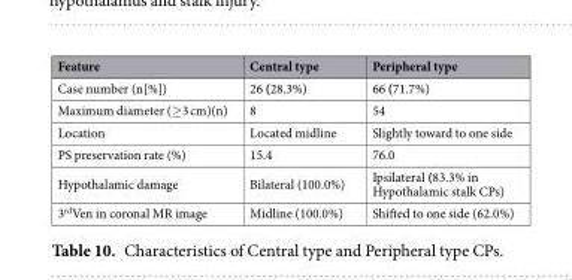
<table><thead><tr><td>Feature</td><td>Central type</td><td>Peripheral type</td></tr></thead><tbody><tr><td>Case number (n[%])</td><td>26 (28.3%)</td><td>66 (71.7%)</td></tr><tr><td>Maximum diameter (≥3 cm)(n)</td><td>8</td><td>54</td></tr><tr><td>Location</td><td>Located midline</td><td>Slightly toward to one side</td></tr><tr><td>PS preservation rate (%)</td><td>15.4</td><td>76.0</td></tr><tr><td>Hypothalamic damage</td><td>Bilateral (100.0%)</td><td>Ipsilateral (83.3% in Hypothalamic stalk CPs)</td></tr><tr><td>3<sup>rd</sup>Ven in coronal MR image</td><td>Midline (100.0%)</td><td>Shifted to one side (62.0%)</td></tr></tbody></table>